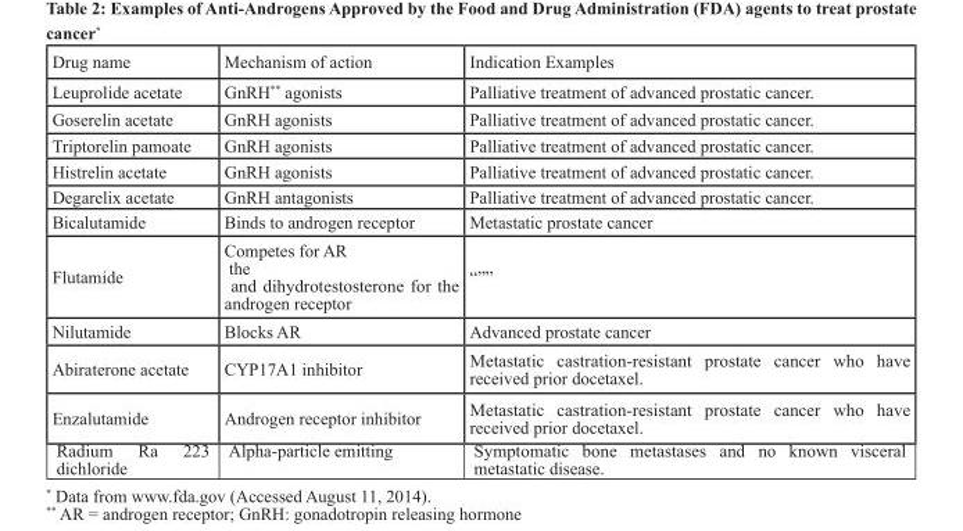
<table><thead><tr><td>Drug name</td><td>Mechanism of action</td><td>Indication Examples</td></tr></thead><tbody><tr><td>Leuprolide acetate</td><td>GnRH** agonists</td><td>Palliative treatment of advanced prostatic cancer.</td></tr><tr><td>Goserelin acetate</td><td>GnRH agonists</td><td>Palliative treatment of advanced prostatic cancer.</td></tr><tr><td>Triptorelin pamoate</td><td>GnRH agonists</td><td>Palliative treatment of advanced prostatic cancer.</td></tr><tr><td>Histrelin acetate</td><td>GnRH agonists</td><td>Palliative treatment of advanced prostatic cancer.</td></tr><tr><td>Degarelix acetate</td><td>GnRH antagonists</td><td>Palliative treatment of advanced prostatic cancer.</td></tr><tr><td>Bicalutamide</td><td>Binds to androgen receptor</td><td>Metastatic prostate cancer</td></tr><tr><td>Flutamide</td><td>Competes for AR the and dihydrotestosterone for the androgen receptor</td><td>“””</td></tr><tr><td>Nilutamide</td><td>Blocks AR</td><td>Advanced prostate cancer</td></tr><tr><td>Abiraterone acetate</td><td>CYP17A1 inhibitor</td><td>Metastatic castration-resistant prostate cancer who have received prior docetaxel.</td></tr><tr><td>Enzalutamide</td><td>Androgen receptor inhibitor</td><td>Metastatic castration-resistant prostate cancer who have received prior docetaxel.</td></tr><tr><td>Radium Ra 223 dichloride</td><td>Alpha-particle emitting</td><td>Symptomatic bone metastases and no known visceral metastatic disease.</td></tr></tbody></table>